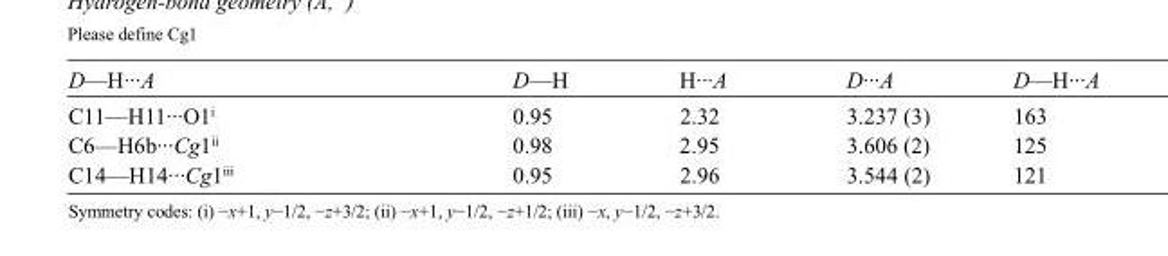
<table><tbody><tr><td>D—H···A</td><td>D—H</td><td>H···A</td><td>D···A</td><td>D—H···A</td></tr><tr><td>C11—H11···O1<sup>i</sup></td><td>0.95</td><td>2.32</td><td>3.237 (3)</td><td>163</td></tr><tr><td>C6—H6b···Cg1<sup>ii</sup></td><td>0.98</td><td>2.95</td><td>3.606 (2)</td><td>125</td></tr><tr><td>C14—H14···Cg1<sup>iii</sup></td><td>0.95</td><td>2.96</td><td>3.544 (2)</td><td>121</td></tr></tbody></table>